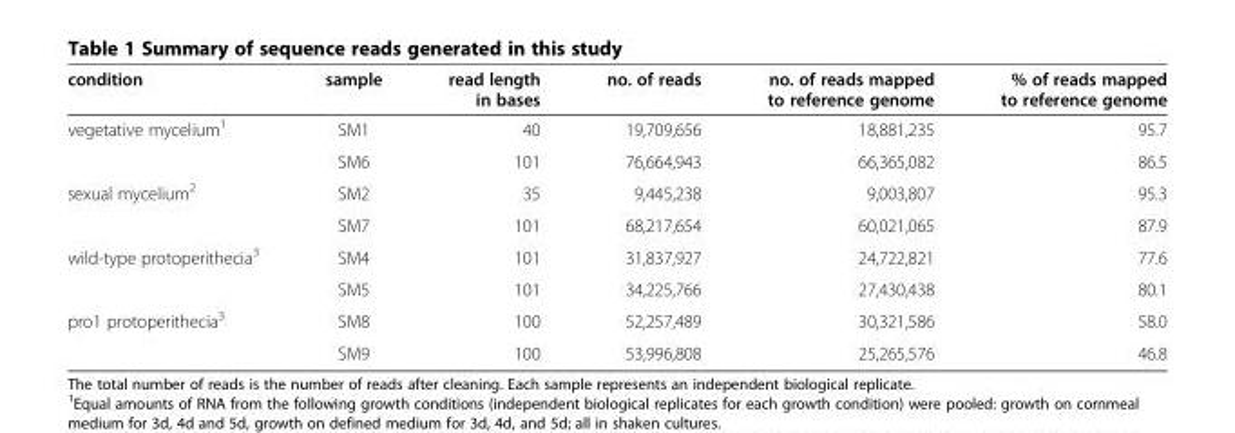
<table><thead><tr><td>condition</td><td>sample</td><td>read length in bases</td><td>no. of reads</td><td>no. of reads mapped to reference genome</td><td>% of reads mapped to reference genome</td></tr></thead><tbody><tr><td rowspan="2">vegetative mycelium<sup>1</sup></td><td>SM1</td><td>40</td><td>19,709,656</td><td>18,881,235</td><td>95.7</td></tr><tr><td>SM6</td><td>101</td><td>76,664,943</td><td>66,365,082</td><td>86.5</td></tr><tr><td rowspan="2">sexual mycelium<sup>2</sup></td><td>SM2</td><td>35</td><td>9,445,238</td><td>9,003,807</td><td>95.3</td></tr><tr><td>SM7</td><td>101</td><td>68,217,654</td><td>60,021,065</td><td>87.9</td></tr><tr><td rowspan="2">wild-type protoperithecia<sup>3</sup></td><td>SM4</td><td>101</td><td>31,837,927</td><td>24,722,821</td><td>77.6</td></tr><tr><td>SM5</td><td>101</td><td>34,225,766</td><td>27,430,438</td><td>80.1</td></tr><tr><td rowspan="2">pro1 protoperithecia<sup>3</sup></td><td>SM8</td><td>100</td><td>52,257,489</td><td>30,321,586</td><td>58.0</td></tr><tr><td>SM9</td><td>100</td><td>53,996,808</td><td>25,265,576</td><td>46.8</td></tr></tbody></table>